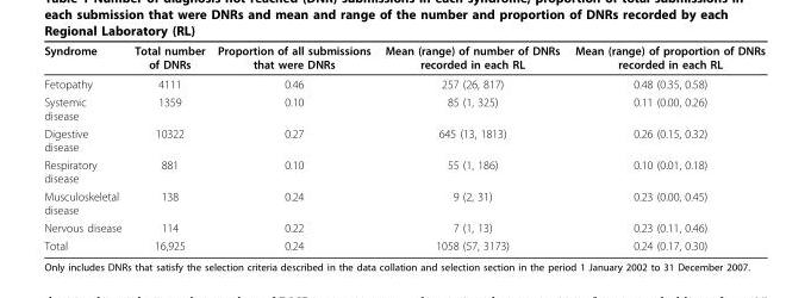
<table><thead><tr><td>Syndrome</td><td>Total number of DNRs</td><td>Proportion of all submissions that were DNRs</td><td>Mean (range) of number of DNRs recorded in each RL</td><td>Mean (range) of proportion of DNRs recorded in each RL</td></tr></thead><tbody><tr><td>Fetopathy</td><td>4111</td><td>0.46</td><td>257 (26, 817)</td><td>0.48 (0.35, 0.58)</td></tr><tr><td>Systemic disease</td><td>1359</td><td>0.10</td><td>85 (1, 325)</td><td>0.11 (0.00, 0.26)</td></tr><tr><td>Digestive disease</td><td>10322</td><td>0.27</td><td>645 (13, 1813)</td><td>0.26 (0.15, 0.32)</td></tr><tr><td>Respiratory disease</td><td>881</td><td>0.10</td><td>55 (1, 186)</td><td>0.10 (0.01, 0.18)</td></tr><tr><td>Musculoskeletal disease</td><td>138</td><td>0.24</td><td>9 (2, 31)</td><td>0.23 (0.00, 0.45)</td></tr><tr><td>Nervous disease</td><td>114</td><td>0.22</td><td>7 (1, 13)</td><td>0.23 (0.11, 0.46)</td></tr><tr><td>Total</td><td>16,925</td><td>0.24</td><td>1058 (57, 3173)</td><td>0.24 (0.17, 0.30)</td></tr></tbody></table>